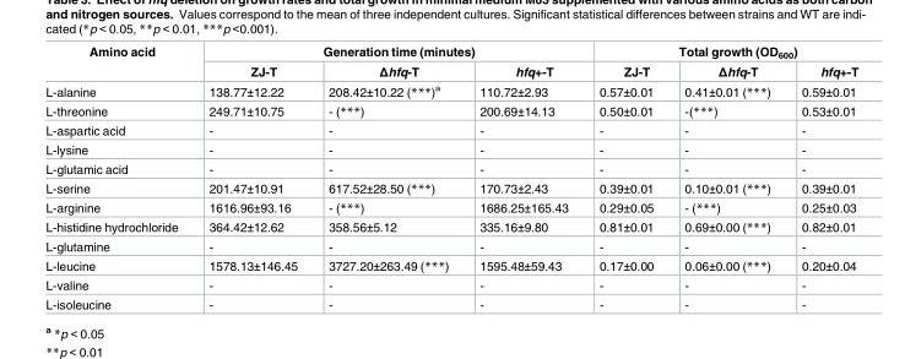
<table><thead><tr><td rowspan="2">Amino acid</td><td colspan="3">Generation time (minutes)</td><td colspan="3">Total growth (OD<sub>600</sub>)</td></tr><tr><td>ZJ-T</td><td>Δhfq-T</td><td>hfq+-T</td><td>ZJ-T</td><td>Δhfq-T</td><td>hfq+-T</td></tr></thead><tbody><tr><td>L-alanine</td><td>138.77±12.22</td><td>208.42±10.22 (***)<sup>a</sup></td><td>110.72±2.93</td><td>0.57±0.01</td><td>0.41±0.01 (***)</td><td>0.59±0.01</td></tr><tr><td>L-threonine</td><td>249.71±10.75</td><td>- (***)</td><td>200.69±14.13</td><td>0.50±0.01</td><td>-(***)</td><td>0.53±0.01</td></tr><tr><td>L-aspartic acid</td><td>-</td><td>-</td><td>-</td><td>-</td><td>-</td><td>-</td></tr><tr><td>L-lysine</td><td>-</td><td>-</td><td>-</td><td>-</td><td>-</td><td>-</td></tr><tr><td>L-glutamic acid</td><td>-</td><td>-</td><td>-</td><td>-</td><td>-</td><td>-</td></tr><tr><td>L-serine</td><td>201.47±10.91</td><td>617.52±28.50 (***)</td><td>170.73±2.43</td><td>0.39±0.01</td><td>0.10±0.01 (***)</td><td>0.39±0.01</td></tr><tr><td>L-arginine</td><td>1616.96±93.16</td><td>- (***)</td><td>1686.25±165.43</td><td>0.29±0.05</td><td>- (***)</td><td>0.25±0.03</td></tr><tr><td>L-histidine hydrochloride</td><td>364.42±12.62</td><td>358.56±5.12</td><td>335.16±9.80</td><td>0.81±0.01</td><td>0.69±0.00 (***)</td><td>0.82±0.01</td></tr><tr><td>L-glutamine</td><td>-</td><td>-</td><td>-</td><td>-</td><td>-</td><td>-</td></tr><tr><td>L-leucine</td><td>1578.13±146.45</td><td>3727.20±263.49 (***)</td><td>1595.48±59.43</td><td>0.17±0.00</td><td>0.06±0.00 (***)</td><td>0.20±0.04</td></tr><tr><td>L-valine</td><td>-</td><td>-</td><td>-</td><td>-</td><td>-</td><td>-</td></tr><tr><td>L-isoleucine</td><td>-</td><td>-</td><td>-</td><td>-</td><td>-</td><td>-</td></tr></tbody></table>